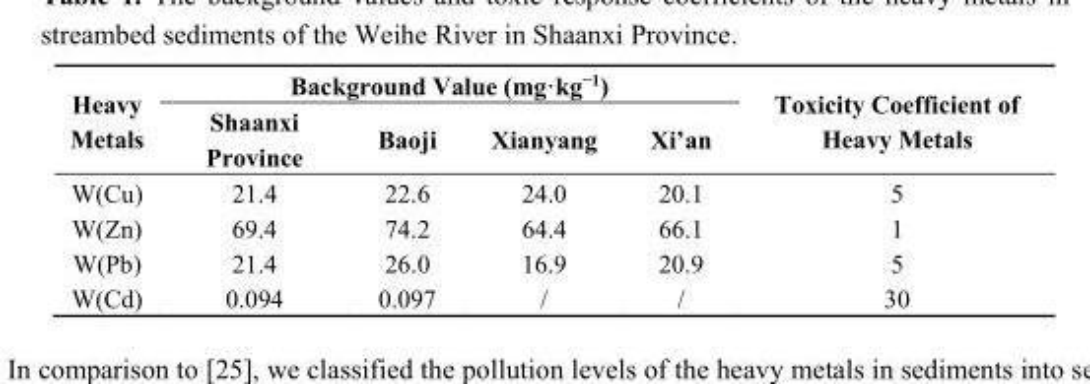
<table><thead><tr><td rowspan="2">Heavy Metals</td><td colspan="4">Background Value (mg·kg<sup>−1</sup>)</td><td rowspan="2">Toxicity Coefficient of Heavy Metals</td></tr><tr><td>Shaanxi Province</td><td>Baoji</td><td>Xianyang</td><td>Xi’an</td></tr></thead><tbody><tr><td>W(Cu)</td><td>21.4</td><td>22.6</td><td>24.0</td><td>20.1</td><td>5</td></tr><tr><td>W(Zn)</td><td>69.4</td><td>74.2</td><td>64.4</td><td>66.1</td><td>1</td></tr><tr><td>W(Pb)</td><td>21.4</td><td>26.0</td><td>16.9</td><td>20.9</td><td>5</td></tr><tr><td>W(Cd)</td><td>0.094</td><td>0.097</td><td>/</td><td>/</td><td>30</td></tr></tbody></table>